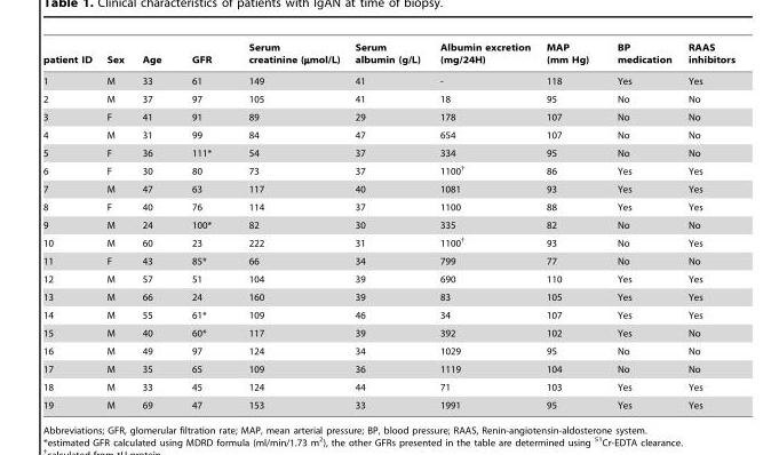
<table><thead><tr><td>patient ID</td><td>Sex</td><td>Age</td><td>GFR</td><td>Serum creatinine (µmol/L)</td><td>Serum albumin (g/L)</td><td>Albumin excretion (mg/24H)</td><td>MAP (mm Hg)</td><td>BP medication</td><td>RAAS inhibitors</td></tr></thead><tbody><tr><td>1</td><td>M</td><td>33</td><td>61</td><td>149</td><td>41</td><td>-</td><td>118</td><td>Yes</td><td>Yes</td></tr><tr><td>2</td><td>M</td><td>37</td><td>97</td><td>105</td><td>41</td><td>18</td><td>95</td><td>No</td><td>No</td></tr><tr><td>3</td><td>F</td><td>41</td><td>91</td><td>89</td><td>29</td><td>178</td><td>107</td><td>No</td><td>No</td></tr><tr><td>4</td><td>M</td><td>31</td><td>99</td><td>84</td><td>47</td><td>654</td><td>107</td><td>No</td><td>No</td></tr><tr><td>5</td><td>F</td><td>36</td><td>111*</td><td>54</td><td>37</td><td>334</td><td>95</td><td>No</td><td>No</td></tr><tr><td>6</td><td>F</td><td>30</td><td>80</td><td>73</td><td>37</td><td>1100†</td><td>86</td><td>Yes</td><td>Yes</td></tr><tr><td>7</td><td>M</td><td>47</td><td>63</td><td>117</td><td>40</td><td>1081</td><td>93</td><td>Yes</td><td>Yes</td></tr><tr><td>8</td><td>F</td><td>40</td><td>76</td><td>114</td><td>37</td><td>1100</td><td>88</td><td>Yes</td><td>Yes</td></tr><tr><td>9</td><td>M</td><td>24</td><td>100*</td><td>82</td><td>30</td><td>335</td><td>82</td><td>No</td><td>No</td></tr><tr><td>10</td><td>M</td><td>60</td><td>23</td><td>222</td><td>31</td><td>1100†</td><td>93</td><td>No</td><td>Yes</td></tr><tr><td>11</td><td>F</td><td>43</td><td>85*</td><td>66</td><td>34</td><td>799</td><td>77</td><td>No</td><td>No</td></tr><tr><td>12</td><td>M</td><td>57</td><td>51</td><td>104</td><td>39</td><td>690</td><td>110</td><td>Yes</td><td>Yes</td></tr><tr><td>13</td><td>M</td><td>66</td><td>24</td><td>160</td><td>39</td><td>83</td><td>105</td><td>Yes</td><td>Yes</td></tr><tr><td>14</td><td>M</td><td>55</td><td>61*</td><td>109</td><td>46</td><td>34</td><td>107</td><td>Yes</td><td>Yes</td></tr><tr><td>15</td><td>M</td><td>40</td><td>60*</td><td>117</td><td>39</td><td>392</td><td>102</td><td>Yes</td><td>No</td></tr><tr><td>16</td><td>M</td><td>49</td><td>97</td><td>124</td><td>34</td><td>1029</td><td>95</td><td>No</td><td>No</td></tr><tr><td>17</td><td>M</td><td>35</td><td>65</td><td>109</td><td>36</td><td>1119</td><td>104</td><td>No</td><td>No</td></tr><tr><td>18</td><td>M</td><td>33</td><td>45</td><td>124</td><td>44</td><td>71</td><td>103</td><td>Yes</td><td>Yes</td></tr><tr><td>19</td><td>M</td><td>69</td><td>47</td><td>153</td><td>33</td><td>1991</td><td>95</td><td>Yes</td><td>Yes</td></tr></tbody></table>